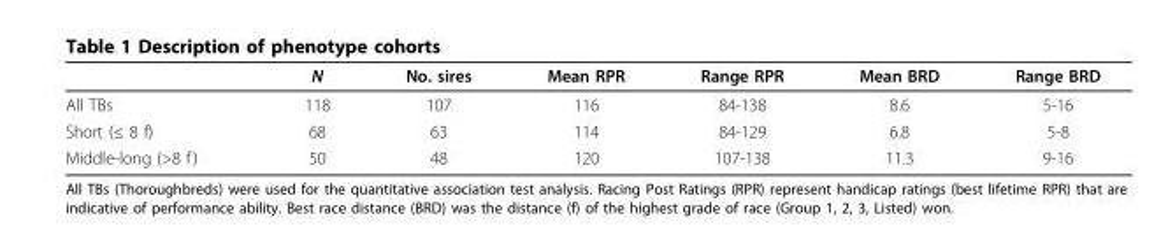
<table><thead><tr><td></td><td>N</td><td>No. sires</td><td>Mean RPR</td><td>Range RPR</td><td>Mean BRD</td><td>Range BRD</td></tr></thead><tbody><tr><td>All TBs</td><td>118</td><td>107</td><td>116</td><td>84-138</td><td>8.6</td><td>5-16</td></tr><tr><td>Short (≤ 8 f)</td><td>68</td><td>63</td><td>114</td><td>84-129</td><td>6.8</td><td>5-8</td></tr><tr><td>Middle-long (&gt;8 f)</td><td>50</td><td>48</td><td>120</td><td>107-138</td><td>11.3</td><td>9-16</td></tr></tbody></table>